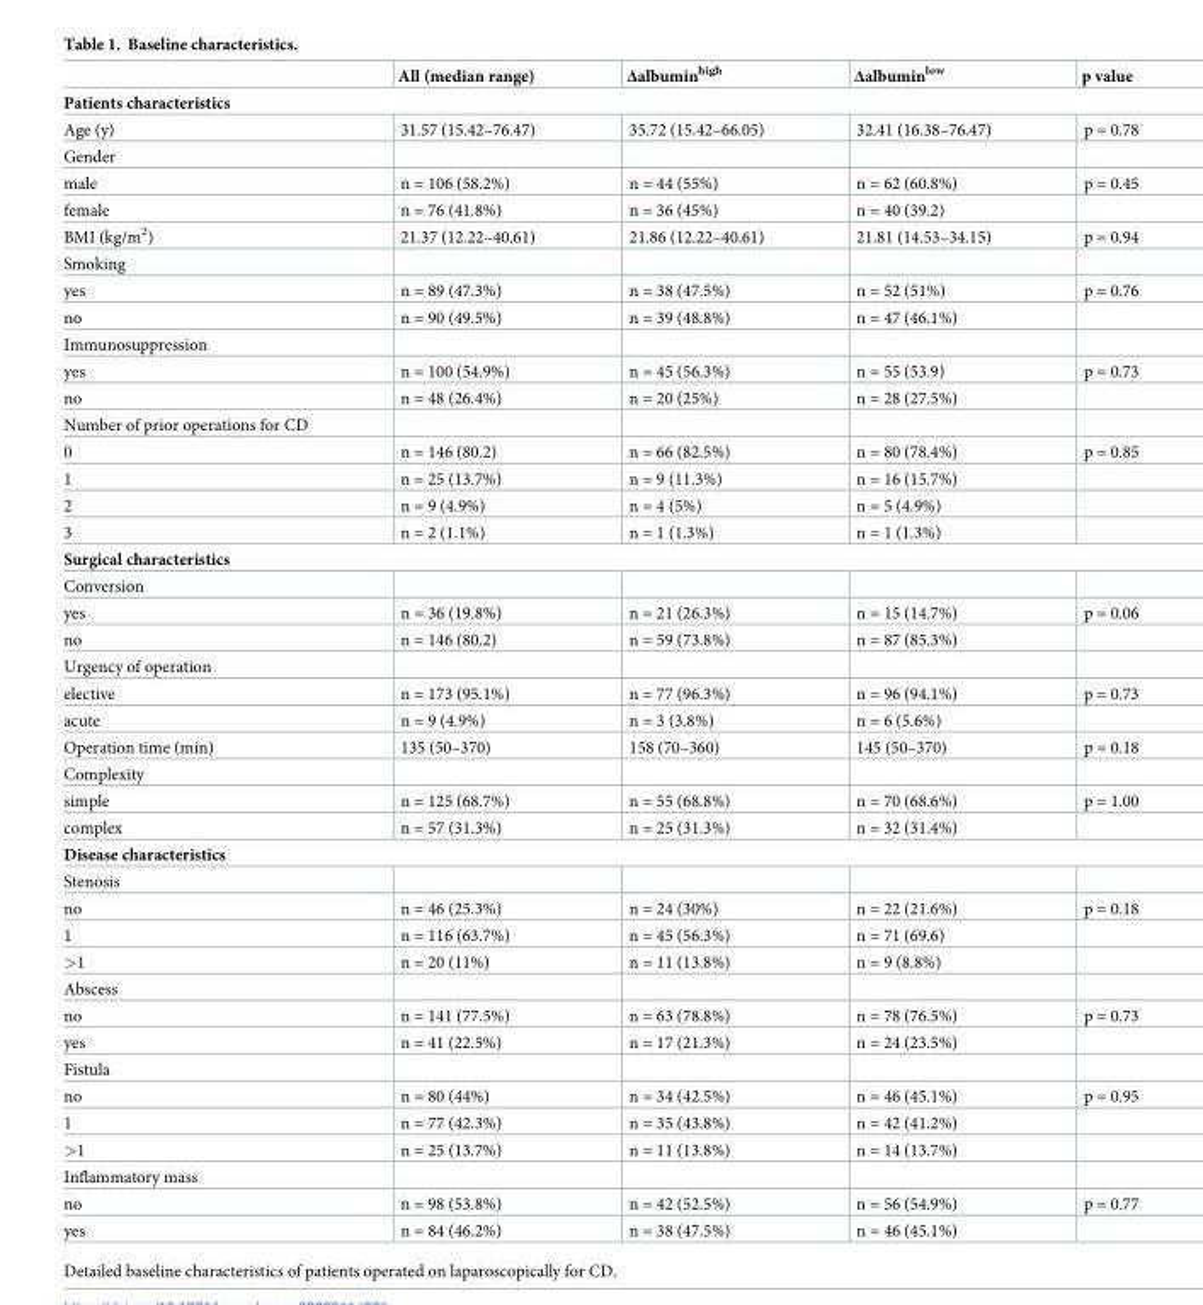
<table><thead><tr><td></td><td>All (median range)</td><td>Δalbumin<sup>high</sup></td><td>Δalbumin<sup>low</sup></td><td>p value</td></tr></thead><tbody><tr><td colspan="5">Patients characteristics</td></tr><tr><td>Age (y)</td><td>31.57 (15.42–76.47)</td><td>35.72 (15.42–66.05)</td><td>32.41 (16.38–76.47)</td><td>p = 0.78</td></tr><tr><td colspan="5">Gender</td></tr><tr><td>male</td><td>n = 106 (58.2%)</td><td>n = 44 (55%)</td><td>n = 62 (60.8%)</td><td>p = 0.45</td></tr><tr><td>female</td><td>n = 76 (41.8%)</td><td>n = 36 (45%)</td><td>n = 40 (39.2)</td><td></td></tr><tr><td>BMI (kg/m<sup>2</sup>)</td><td>21.37 (12.22–40.61)</td><td>21.86 (12.22–40.61)</td><td>21.81 (14.53–34.15)</td><td>p = 0.94</td></tr><tr><td colspan="5">Smoking</td></tr><tr><td>yes</td><td>n = 89 (47.3%)</td><td>n = 38 (47.5%)</td><td>n = 52 (51%)</td><td>p = 0.76</td></tr><tr><td>no</td><td>n = 90 (49.5%)</td><td>n = 39 (48.8%)</td><td>n = 47 (46.1%)</td><td></td></tr><tr><td colspan="5">Immunosuppression</td></tr><tr><td>yes</td><td>n = 100 (54.9%)</td><td>n = 45 (56.3%)</td><td>n = 55 (53.9)</td><td>p = 0.73</td></tr><tr><td>no</td><td>n = 48 (26.4%)</td><td>n = 20 (25%)</td><td>n = 28 (27.5%)</td><td></td></tr><tr><td colspan="5">Number of prior operations for CD</td></tr><tr><td>0</td><td>n = 146 (80.2)</td><td>n = 66 (82.5%)</td><td>n = 80 (78.4%)</td><td>p = 0.85</td></tr><tr><td>1</td><td>n = 25 (13.7%)</td><td>n = 9 (11.3%)</td><td>n = 16 (15.7%)</td><td></td></tr><tr><td>2</td><td>n = 9 (4.9%)</td><td>n = 4 (5%)</td><td>n = 5 (4.9%)</td><td></td></tr><tr><td>3</td><td>n = 2 (1.1%)</td><td>n = 1 (1.3%)</td><td>n = 1 (1.3%)</td><td></td></tr><tr><td colspan="5">Surgical characteristics</td></tr><tr><td colspan="5">Conversion</td></tr><tr><td>yes</td><td>n = 36 (19.8%)</td><td>n = 21 (26.3%)</td><td>n = 15 (14.7%)</td><td>p = 0.06</td></tr><tr><td>no</td><td>n = 146 (80.2)</td><td>n = 59 (73.8%)</td><td>n = 87 (85.3%)</td><td></td></tr><tr><td colspan="5">Urgency of operation</td></tr><tr><td>elective</td><td>n = 173 (95.1%)</td><td>n = 77 (96.3%)</td><td>n = 96 (94.1%)</td><td>p = 0.73</td></tr><tr><td>acute</td><td>n = 9 (4.9%)</td><td>n = 3 (3.8%)</td><td>n = 6 (5.6%)</td><td></td></tr><tr><td>Operation time (min)</td><td>135 (50–370)</td><td>158 (70–360)</td><td>145 (50–370)</td><td>p = 0.18</td></tr><tr><td colspan="5">Complexity</td></tr><tr><td>simple</td><td>n = 125 (68.7%)</td><td>n = 55 (68.8%)</td><td>n = 70 (68.6%)</td><td>p = 1.00</td></tr><tr><td>complex</td><td>n = 57 (31.3%)</td><td>n = 25 (31.3%)</td><td>n = 32 (31.4%)</td><td></td></tr><tr><td colspan="5">Disease characteristics</td></tr><tr><td colspan="5">Stenosis</td></tr><tr><td>no</td><td>n = 46 (25.3%)</td><td>n = 24 (30%)</td><td>n = 22 (21.6%)</td><td>p = 0.18</td></tr><tr><td>1</td><td>n = 116 (63.7%)</td><td>n = 45 (56.3%)</td><td>n = 71 (69.6)</td><td></td></tr><tr><td>&gt;1</td><td>n = 20 (11%)</td><td>n = 11 (13.8%)</td><td>n = 9 (8.8%)</td><td></td></tr><tr><td colspan="5">Abscess</td></tr><tr><td>no</td><td>n = 141 (77.5%)</td><td>n = 63 (78.8%)</td><td>n = 78 (76.5%)</td><td>p = 0.73</td></tr><tr><td>yes</td><td>n = 41 (22.5%)</td><td>n = 17 (21.3%)</td><td>n = 24 (23.5%)</td><td></td></tr><tr><td colspan="5">Fistula</td></tr><tr><td>no</td><td>n = 80 (44%)</td><td>n = 34 (42.5%)</td><td>n = 46 (45.1%)</td><td>p = 0.95</td></tr><tr><td>1</td><td>n = 77 (42.3%)</td><td>n = 35 (43.8%)</td><td>n = 42 (41.2%)</td><td></td></tr><tr><td>&gt;1</td><td>n = 25 (13.7%)</td><td>n = 11 (13.8%)</td><td>n = 14 (13.7%)</td><td></td></tr><tr><td colspan="5">Inflammatory mass</td></tr><tr><td>no</td><td>n = 98 (53.8%)</td><td>n = 42 (52.5%)</td><td>n = 56 (54.9%)</td><td>p = 0.77</td></tr><tr><td>yes</td><td>n = 84 (46.2%)</td><td>n = 38 (47.5%)</td><td>n = 46 (45.1%)</td><td></td></tr></tbody></table>